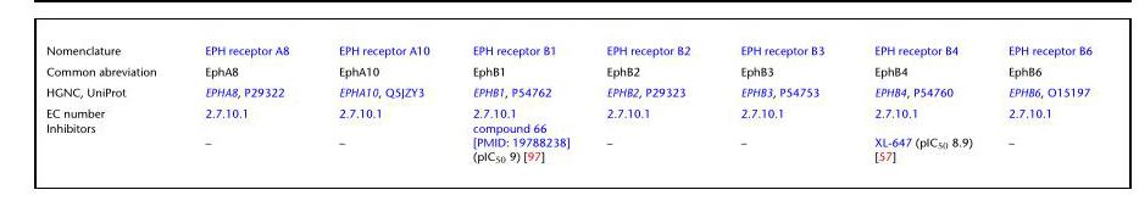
<table><tbody><tr><td>Nomenclature</td><td>EPH receptor A8</td><td>EPH receptor A10</td><td>EPH receptor B1</td><td>EPH receptor B2</td><td>EPH receptor B3</td><td>EPH receptor B4</td><td>EPH receptor B6</td></tr><tr><td>Common abreviation</td><td>EphA8</td><td>EphA10</td><td>EphB1</td><td>EphB2</td><td>EphB3</td><td>EphB4</td><td>EphB6</td></tr><tr><td>HGNC, UniProt</td><td>EPHA8, P29322</td><td>EPHA10, Q5JZY3</td><td>EPHB1, P54762</td><td>EPHB2, P29323</td><td>EPHB3, P54753</td><td>EPHB4, P54760</td><td>EPHB6, O15197</td></tr><tr><td>EC number</td><td>2.7.10.1</td><td>2.7.10.1</td><td>2.7.10.1</td><td>2.7.10.1</td><td>2.7.10.1</td><td>2.7.10.1</td><td>2.7.10.1</td></tr><tr><td>Inhibitors</td><td>–</td><td>–</td><td>compound 66 [PMID: 19788238] (pIC<sub>50</sub> 9) [97]</td><td>–</td><td>–</td><td>XL-647 (pIC<sub>50</sub> 8.9) [57]</td><td>–</td></tr></tbody></table>